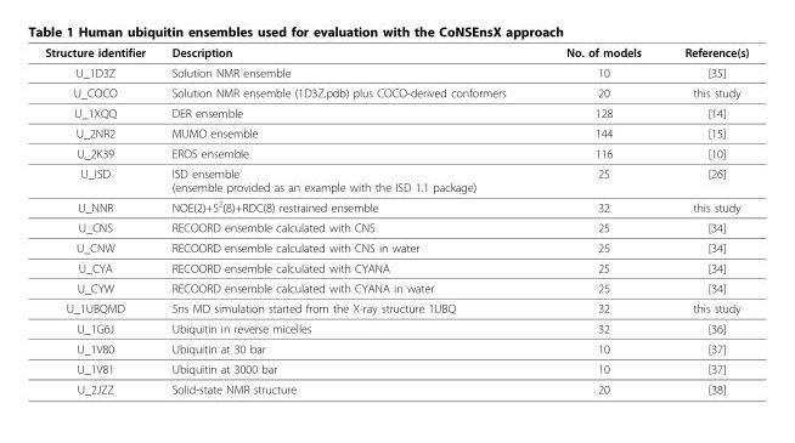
<table><thead><tr><td>Structure identifier</td><td>Description</td><td>No. of models</td><td>Reference(s)</td></tr></thead><tbody><tr><td>U_1D3Z</td><td>Solution NMR ensemble</td><td>10</td><td>[35]</td></tr><tr><td>U_COCO</td><td>Solution NMR ensemble (1D3Z.pdb) plus COCO-derived conformers</td><td>20</td><td>this study</td></tr><tr><td>U_1XQQ</td><td>DER ensemble</td><td>128</td><td>[14]</td></tr><tr><td>U_2NR2</td><td>MUMO ensemble</td><td>144</td><td>[15]</td></tr><tr><td>U_2K39</td><td>EROS ensemble</td><td>116</td><td>[10]</td></tr><tr><td>U_ISD</td><td>ISD ensemble (ensemble provided as an example with the ISD 1.1 package)</td><td>25</td><td>[26]</td></tr><tr><td>U_NNR</td><td>NOE(2)+S<sup>2</sup>(8)+RDC(8) restrained ensemble</td><td>32</td><td>this study</td></tr><tr><td>U_CNS</td><td>RECOORD ensemble calculated with CNS</td><td>25</td><td>[34]</td></tr><tr><td>U_CNW</td><td>RECOORD ensemble calculated with CNS in water</td><td>25</td><td>[34]</td></tr><tr><td>U_CYA</td><td>RECOORD ensemble calculated with CYANA</td><td>25</td><td>[34]</td></tr><tr><td>U_CYW</td><td>RECOORD ensemble calculated with CYANA in water</td><td>25</td><td>[34]</td></tr><tr><td>U_1UBQMD</td><td>5ns MD simulation started from the X-ray structure 1UBQ</td><td>32</td><td>this study</td></tr><tr><td>U_1G6J</td><td>Ubiquitin in reverse micelles</td><td>32</td><td>[36]</td></tr><tr><td>U_1V80</td><td>Ubiquitin at 30 bar</td><td>10</td><td>[37]</td></tr><tr><td>U_1V81</td><td>Ubiquitin at 3000 bar</td><td>10</td><td>[37]</td></tr><tr><td>U_2JZZ</td><td>Solid-state NMR structure</td><td>20</td><td>[38]</td></tr></tbody></table>